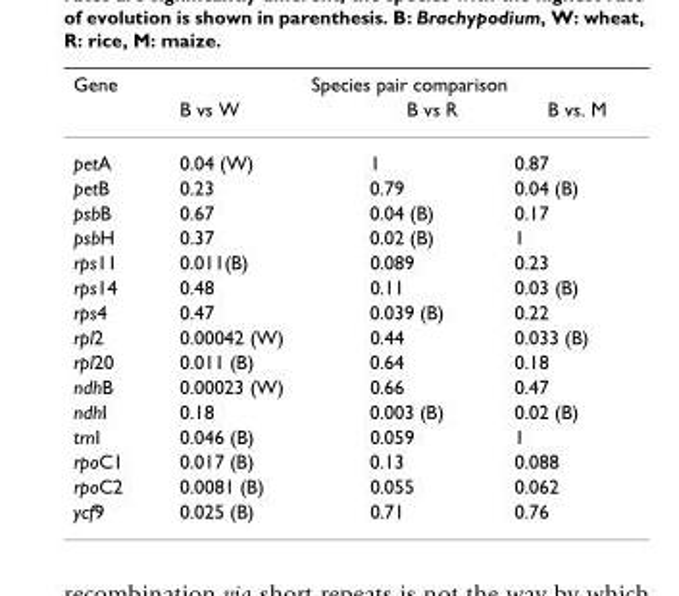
<table><thead><tr><td rowspan="2">Gene</td><td colspan="3">Species pair comparison</td></tr><tr><td>B vs W</td><td>B vs R</td><td>B vs. M</td></tr></thead><tbody><tr><td>petA</td><td>0.04 (W)</td><td>1</td><td>0.87</td></tr><tr><td>petB</td><td>0.23</td><td>0.79</td><td>0.04 (B)</td></tr><tr><td>psbB</td><td>0.67</td><td>0.04 (B)</td><td>0.17</td></tr><tr><td>psbH</td><td>0.37</td><td>0.02 (B)</td><td>1</td></tr><tr><td>rps11</td><td>0.011(B)</td><td>0.089</td><td>0.23</td></tr><tr><td>rps14</td><td>0.48</td><td>0.11</td><td>0.03 (B)</td></tr><tr><td>rps4</td><td>0.47</td><td>0.039 (B)</td><td>0.22</td></tr><tr><td>rpl2</td><td>0.00042 (W)</td><td>0.44</td><td>0.033 (B)</td></tr><tr><td>rpl20</td><td>0.011 (B)</td><td>0.64</td><td>0.18</td></tr><tr><td>ndhB</td><td>0.00023 (W)</td><td>0.66</td><td>0.47</td></tr><tr><td>ndhI</td><td>0.18</td><td>0.003 (B)</td><td>0.02 (B)</td></tr><tr><td>trnI</td><td>0.046 (B)</td><td>0.059</td><td>1</td></tr><tr><td>rpoC1</td><td>0.017 (B)</td><td>0.13</td><td>0.088</td></tr><tr><td>rpoC2</td><td>0.0081 (B)</td><td>0.055</td><td>0.062</td></tr><tr><td>ycf9</td><td>0.025 (B)</td><td>0.71</td><td>0.76</td></tr></tbody></table>